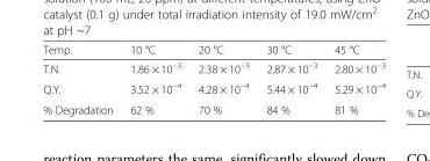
<table><thead><tr><td>Temp.</td><td>10 °C</td><td>20 °C</td><td>30 °C</td><td>45 °C</td></tr></thead><tbody><tr><td>T.N.</td><td>1.86 × 10<sup>−3</sup></td><td>2.38 × 10<sup>−3</sup></td><td>2.87 × 10<sup>−3</sup></td><td>2.80 × 10<sup>−3</sup></td></tr><tr><td>Q.Y.</td><td>3.52 × 10<sup>−4</sup></td><td>4.28 × 10<sup>−4</sup></td><td>5.44 × 10<sup>−4</sup></td><td>5.29 × 10<sup>−4</sup></td></tr><tr><td>% Degradation</td><td>62 %</td><td>70 %</td><td>84 %</td><td>81 %</td></tr></tbody></table>